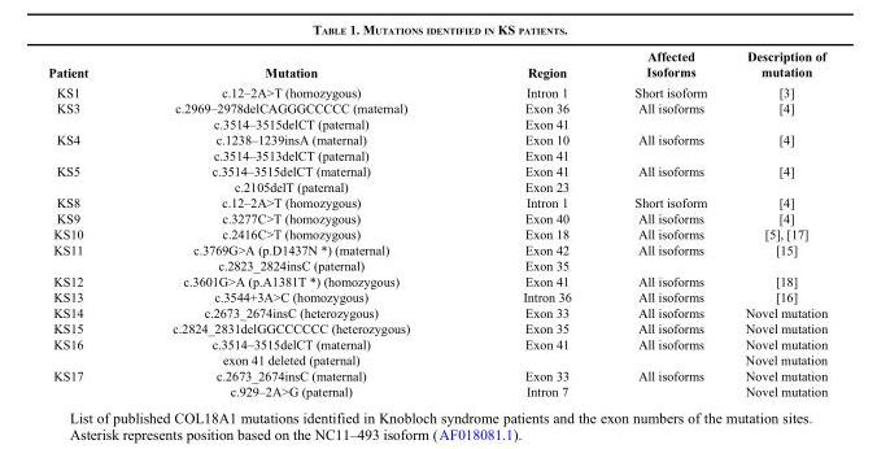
<table><thead><tr><td>Patient</td><td>Mutation</td><td>Region</td><td>Affected Isoforms</td><td>Description of mutation</td></tr></thead><tbody><tr><td>KS1</td><td>c.12–2A&gt;T (homozygous)</td><td>Intron 1</td><td>Short isoform</td><td>[3]</td></tr><tr><td rowspan="2">KS3</td><td>c.2969–2978delCAGGGCCCCC (maternal)</td><td>Exon 36</td><td>All isoforms</td><td>[4]</td></tr><tr><td>c.3514–3515delCT (paternal)</td><td>Exon 41</td><td></td><td></td></tr><tr><td rowspan="2">KS4</td><td>c.1238–1239insA (maternal)</td><td>Exon 10</td><td>All isoforms</td><td>[4]</td></tr><tr><td>c.3514–3513delCT (paternal)</td><td>Exon 41</td><td></td><td></td></tr><tr><td rowspan="2">KS5</td><td>c.3514–3515delCT (maternal)</td><td>Exon 41</td><td>All isoforms</td><td>[4]</td></tr><tr><td>c.2105delT (paternal)</td><td>Exon 23</td><td></td><td></td></tr><tr><td>KS8</td><td>c.12–2A&gt;T (homozygous)</td><td>Intron 1</td><td>Short isoform</td><td>[4]</td></tr><tr><td>KS9</td><td>c.3277C&gt;T (homozygous)</td><td>Exon 40</td><td>All isoforms</td><td>[4]</td></tr><tr><td>KS10</td><td>c.2416C&gt;T (homozygous)</td><td>Exon 18</td><td>All isoforms</td><td>[5], [17]</td></tr><tr><td rowspan="2">KS11</td><td>c.3769G&gt;A (p.D1437N *) (maternal)</td><td>Exon 42</td><td>All isoforms</td><td>[15]</td></tr><tr><td>c.2823_2824insC (paternal)</td><td>Exon 35</td><td></td><td></td></tr><tr><td>KS12</td><td>c.3601G&gt;A (p.A1381T *) (homozygous)</td><td>Exon 41</td><td>All isoforms</td><td>[18]</td></tr><tr><td>KS13</td><td>c.3544+3A&gt;C (homozygous)</td><td>Intron 36</td><td>All isoforms</td><td>[16]</td></tr><tr><td>KS14</td><td>c.2673_2674insC (heterozygous)</td><td>Exon 33</td><td>All isoforms</td><td>Novel mutation</td></tr><tr><td>KS15</td><td>c.2824_2831delGGCCCCCC (heterozygous)</td><td>Exon 35</td><td>All isoforms</td><td>Novel mutation</td></tr><tr><td rowspan="2">KS16</td><td>c.3514–3515delCT (maternal)</td><td>Exon 41</td><td>All isoforms</td><td>Novel mutation</td></tr><tr><td>exon 41 deleted (paternal)</td><td></td><td></td><td>Novel mutation</td></tr><tr><td rowspan="2">KS17</td><td>c.2673_2674insC (maternal)</td><td>Exon 33</td><td>All isoforms</td><td>Novel mutation</td></tr><tr><td>c.929–2A&gt;G (paternal)</td><td>Intron 7</td><td></td><td>Novel mutation</td></tr></tbody></table>